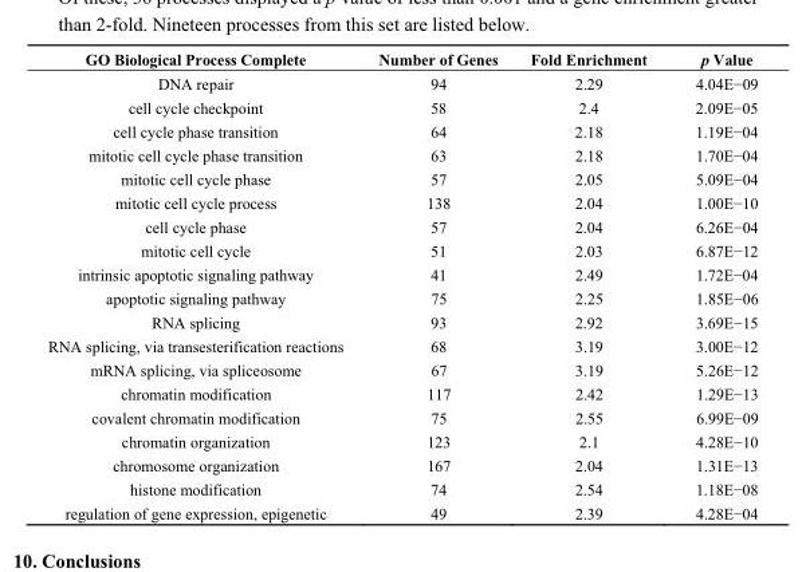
<table><thead><tr><td>GO Biological Process Complete</td><td>Number of Genes</td><td>Fold Enrichment</td><td>p Value</td></tr></thead><tbody><tr><td>DNA repair</td><td>94</td><td>2.29</td><td>4.04E−09</td></tr><tr><td>cell cycle checkpoint</td><td>58</td><td>2.4</td><td>2.09E−05</td></tr><tr><td>cell cycle phase transition</td><td>64</td><td>2.18</td><td>1.19E−04</td></tr><tr><td>mitotic cell cycle phase transition</td><td>63</td><td>2.18</td><td>1.70E−04</td></tr><tr><td>mitotic cell cycle phase</td><td>57</td><td>2.05</td><td>5.09E−04</td></tr><tr><td>mitotic cell cycle process</td><td>138</td><td>2.04</td><td>1.00E−10</td></tr><tr><td>cell cycle phase</td><td>57</td><td>2.04</td><td>6.26E−04</td></tr><tr><td>mitotic cell cycle</td><td>51</td><td>2.03</td><td>6.87E−12</td></tr><tr><td>intrinsic apoptotic signaling pathway</td><td>41</td><td>2.49</td><td>1.72E−04</td></tr><tr><td>apoptotic signaling pathway</td><td>75</td><td>2.25</td><td>1.85E−06</td></tr><tr><td>RNA splicing</td><td>93</td><td>2.92</td><td>3.69E−15</td></tr><tr><td>RNA splicing, via transesterification reactions</td><td>68</td><td>3.19</td><td>3.00E−12</td></tr><tr><td>mRNA splicing, via spliceosome</td><td>67</td><td>3.19</td><td>5.26E−12</td></tr><tr><td>chromatin modification</td><td>117</td><td>2.42</td><td>1.29E−13</td></tr><tr><td>covalent chromatin modification</td><td>75</td><td>2.55</td><td>6.99E−09</td></tr><tr><td>chromatin organization</td><td>123</td><td>2.1</td><td>4.28E−10</td></tr><tr><td>chromosome organization</td><td>167</td><td>2.04</td><td>1.31E−13</td></tr><tr><td>histone modification</td><td>74</td><td>2.54</td><td>1.18E−08</td></tr><tr><td>regulation of gene expression, epigenetic</td><td>49</td><td>2.39</td><td>4.28E−04</td></tr></tbody></table>